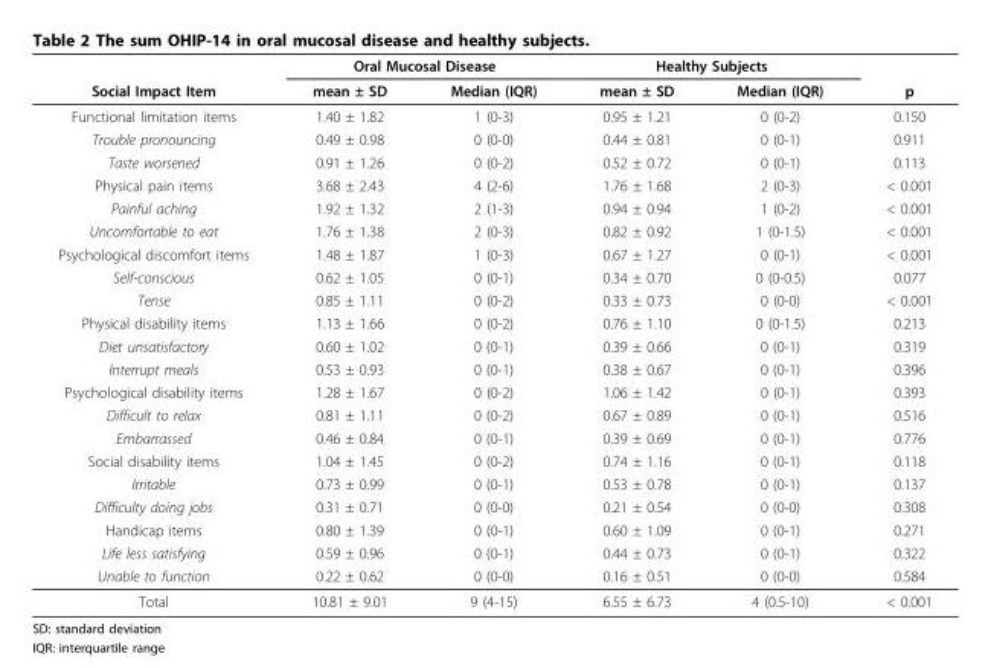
<table><thead><tr><td rowspan="2">Social Impact Item</td><td colspan="2">Oral Mucosal Disease</td><td colspan="2">Healthy Subjects</td><td rowspan="2">p</td></tr><tr><td>mean ± SD</td><td>Median (IQR)</td><td>mean ± SD</td><td>Median (IQR)</td></tr></thead><tbody><tr><td>Functional limitation items</td><td>1.40 ± 1.82</td><td>1 (0-3)</td><td>0.95 ± 1.21</td><td>0 (0-2)</td><td>0.150</td></tr><tr><td>Trouble pronouncing</td><td>0.49 ± 0.98</td><td>0 (0-0)</td><td>0.44 ± 0.81</td><td>0 (0-1)</td><td>0.911</td></tr><tr><td>Taste worsened</td><td>0.91 ± 1.26</td><td>0 (0-2)</td><td>0.52 ± 0.72</td><td>0 (0-1)</td><td>0.113</td></tr><tr><td>Physical pain items</td><td>3.68 ± 2.43</td><td>4 (2-6)</td><td>1.76 ± 1.68</td><td>2 (0-3)</td><td>&lt; 0.001</td></tr><tr><td>Painful aching</td><td>1.92 ± 1.32</td><td>2 (1-3)</td><td>0.94 ± 0.94</td><td>1 (0-2)</td><td>&lt; 0.001</td></tr><tr><td>Uncomfortable to eat</td><td>1.76 ± 1.38</td><td>2 (0-3)</td><td>0.82 ± 0.92</td><td>1 (0-1.5)</td><td>&lt; 0.001</td></tr><tr><td>Psychological discomfort items</td><td>1.48 ± 1.87</td><td>1 (0-3)</td><td>0.67 ± 1.27</td><td>0 (0-1)</td><td>&lt; 0.001</td></tr><tr><td>Self-conscious</td><td>0.62 ± 1.05</td><td>0 (0-1)</td><td>0.34 ± 0.70</td><td>0 (0-0.5)</td><td>0.077</td></tr><tr><td>Tense</td><td>0.85 ± 1.11</td><td>0 (0-2)</td><td>0.33 ± 0.73</td><td>0 (0-0)</td><td>&lt; 0.001</td></tr><tr><td>Physical disability items</td><td>1.13 ± 1.66</td><td>0 (0-2)</td><td>0.76 ± 1.10</td><td>0 (0-1.5)</td><td>0.213</td></tr><tr><td>Diet unsatisfactory</td><td>0.60 ± 1.02</td><td>0 (0-1)</td><td>0.39 ± 0.66</td><td>0 (0-1)</td><td>0.319</td></tr><tr><td>Interrupt meals</td><td>0.53 ± 0.93</td><td>0 (0-1)</td><td>0.38 ± 0.67</td><td>0 (0-1)</td><td>0.396</td></tr><tr><td>Psychological disability items</td><td>1.28 ± 1.67</td><td>0 (0-2)</td><td>1.06 ± 1.42</td><td>0 (0-1)</td><td>0.393</td></tr><tr><td>Difficult to relax</td><td>0.81 ± 1.11</td><td>0 (0-2)</td><td>0.67 ± 0.89</td><td>0 (0-1)</td><td>0.516</td></tr><tr><td>Embarrassed</td><td>0.46 ± 0.84</td><td>0 (0-1)</td><td>0.39 ± 0.69</td><td>0 (0-1)</td><td>0.776</td></tr><tr><td>Social disability items</td><td>1.04 ± 1.45</td><td>0 (0-2)</td><td>0.74 ± 1.16</td><td>0 (0-1)</td><td>0.118</td></tr><tr><td>Irritable</td><td>0.73 ± 0.99</td><td>0 (0-1)</td><td>0.53 ± 0.78</td><td>0 (0-1)</td><td>0.137</td></tr><tr><td>Difficulty doing jobs</td><td>0.31 ± 0.71</td><td>0 (0-0)</td><td>0.21 ± 0.54</td><td>0 (0-0)</td><td>0.308</td></tr><tr><td>Handicap items</td><td>0.80 ± 1.39</td><td>0 (0-1)</td><td>0.60 ± 1.09</td><td>0 (0-1)</td><td>0.271</td></tr><tr><td>Life less satisfying</td><td>0.59 ± 0.96</td><td>0 (0-1)</td><td>0.44 ± 0.73</td><td>0 (0-1)</td><td>0.322</td></tr><tr><td>Unable to function</td><td>0.22 ± 0.62</td><td>0 (0-0)</td><td>0.16 ± 0.51</td><td>0 (0-0)</td><td>0.584</td></tr><tr><td>Total</td><td>10.81 ± 9.01</td><td>9 (4-15)</td><td>6.55 ± 6.73</td><td>4 (0.5-10)</td><td>&lt; 0.001</td></tr></tbody></table>